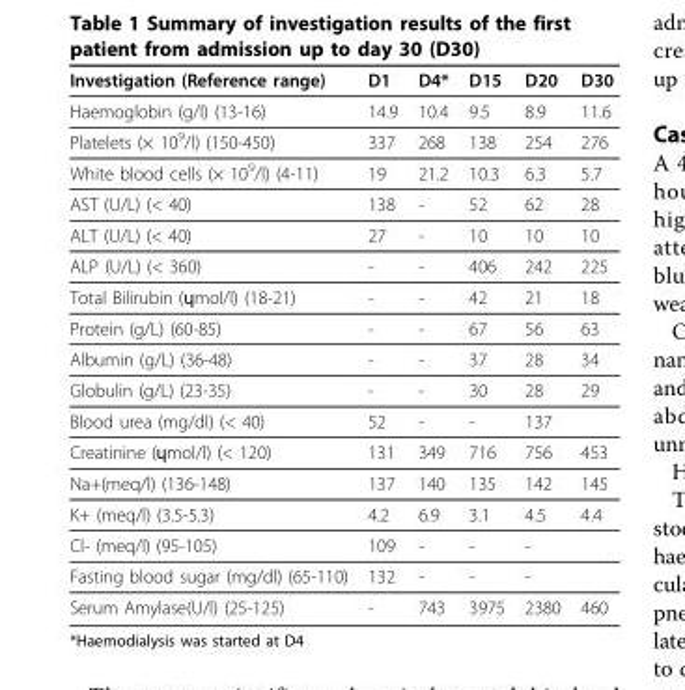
<table><thead><tr><td>Investigation (Reference range)</td><td>D1</td><td>D4*</td><td>D15</td><td>D20</td><td>D30</td></tr></thead><tbody><tr><td>Haemoglobin (g/l) (13-16)</td><td>14.9</td><td>10.4</td><td>9.5</td><td>8.9</td><td>11.6</td></tr><tr><td>Platelets (× 10<sup>9</sup>/l) (150-450)</td><td>337</td><td>268</td><td>138</td><td>254</td><td>276</td></tr><tr><td>White blood cells (× 10<sup>9</sup>/l) (4-11)</td><td>19</td><td>21.2</td><td>10.3</td><td>6.3</td><td>5.7</td></tr><tr><td>AST (U/L) (&lt; 40)</td><td>138</td><td>-</td><td>52</td><td>62</td><td>28</td></tr><tr><td>ALT (U/L) (&lt; 40)</td><td>27</td><td>-</td><td>10</td><td>10</td><td>10</td></tr><tr><td>ALP (U/L) (&lt; 360)</td><td>-</td><td>-</td><td>406</td><td>242</td><td>225</td></tr><tr><td>Total Bilirubin (ɥmol/l) (18-21)</td><td>-</td><td>-</td><td>42</td><td>21</td><td>18</td></tr><tr><td>Protein (g/L) (60-85)</td><td>-</td><td>-</td><td>67</td><td>56</td><td>63</td></tr><tr><td>Albumin (g/L) (36-48)</td><td>-</td><td>-</td><td>37</td><td>28</td><td>34</td></tr><tr><td>Globulin (g/L) (23-35)</td><td>-</td><td>-</td><td>30</td><td>28</td><td>29</td></tr><tr><td>Blood urea (mg/dl) (&lt; 40)</td><td>52</td><td>-</td><td>-</td><td>137</td><td></td></tr><tr><td>Creatinine (ɥmol/l) (&lt; 120)</td><td>131</td><td>349</td><td>716</td><td>756</td><td>453</td></tr><tr><td>Na+(meq/l) (136-148)</td><td>137</td><td>140</td><td>135</td><td>142</td><td>145</td></tr><tr><td>K+ (meq/l) (3.5-5.3)</td><td>4.2</td><td>6.9</td><td>3.1</td><td>4.5</td><td>4.4</td></tr><tr><td>Cl- (meq/l) (95-105)</td><td>109</td><td>-</td><td>-</td><td>-</td><td></td></tr><tr><td>Fasting blood sugar (mg/dl) (65-110)</td><td>132</td><td>-</td><td>-</td><td>-</td><td></td></tr><tr><td>Serum Amylase(U/l) (25-125)</td><td>-</td><td>743</td><td>3975</td><td>2380</td><td>460</td></tr></tbody></table>